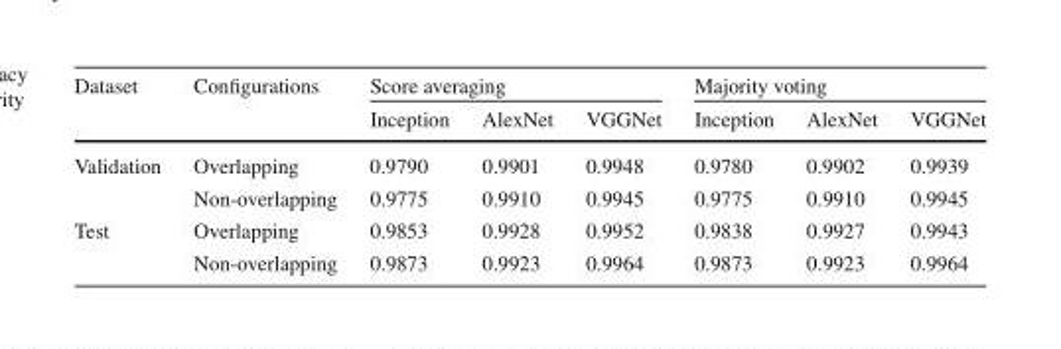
<table><thead><tr><td rowspan="2">Dataset</td><td rowspan="2">Configurations</td><td colspan="3">Score averaging</td><td colspan="3">Majority voting</td></tr><tr><td>Inception</td><td>AlexNet</td><td>VGGNet</td><td>Inception</td><td>AlexNet</td><td>VGGNet</td></tr></thead><tbody><tr><td rowspan="2">Validation</td><td>Overlapping</td><td>0.9790</td><td>0.9901</td><td>0.9948</td><td>0.9780</td><td>0.9902</td><td>0.9939</td></tr><tr><td>Non-overlapping</td><td>0.9775</td><td>0.9910</td><td>0.9945</td><td>0.9775</td><td>0.9910</td><td>0.9945</td></tr><tr><td rowspan="2">Test</td><td>Overlapping</td><td>0.9853</td><td>0.9928</td><td>0.9952</td><td>0.9838</td><td>0.9927</td><td>0.9943</td></tr><tr><td>Non-overlapping</td><td>0.9873</td><td>0.9923</td><td>0.9964</td><td>0.9873</td><td>0.9923</td><td>0.9964</td></tr></tbody></table>